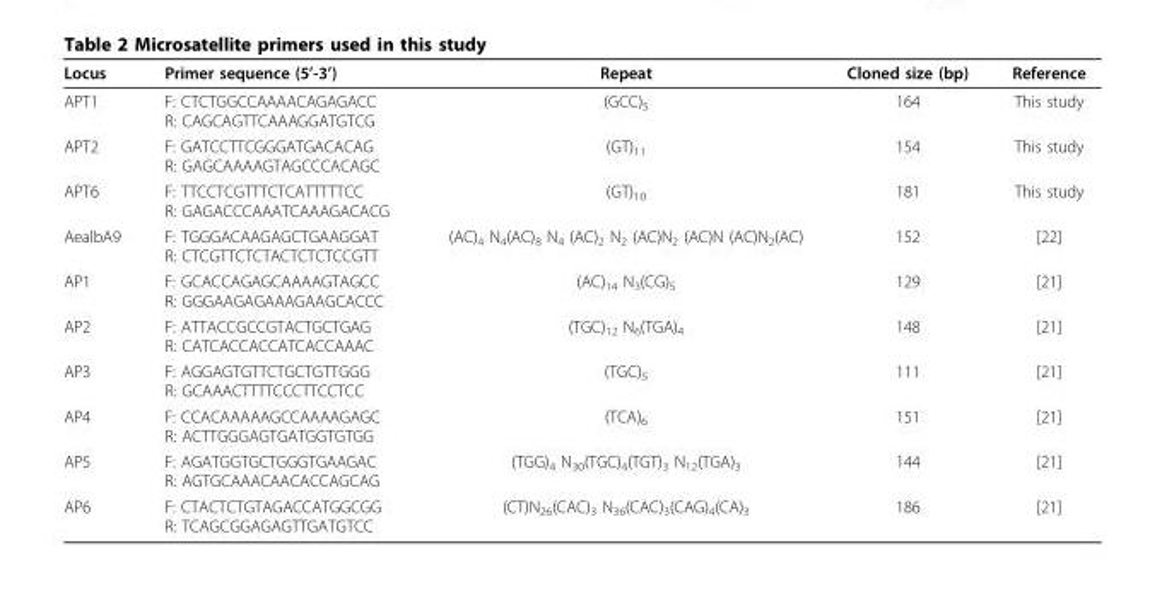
<table><thead><tr><td>Locus</td><td>Primer sequence (5’-3’)</td><td>Repeat</td><td>Cloned size (bp)</td><td>Reference</td></tr></thead><tbody><tr><td>APT1</td><td>F: CTCTGGCCAAAACAGAGACC R: CAGCAGTTCAAAGGATGTCG</td><td>(GCC)<sub>5</sub></td><td>164</td><td>This study</td></tr><tr><td>APT2</td><td>F: GATCCTTCGGGATGACACAG R: GAGCAAAAGTAGCCCACAGC</td><td>(GT)<sub>11</sub></td><td>154</td><td>This study</td></tr><tr><td>APT6</td><td>F: TTCCTCGTTTCTCATTTTTCC R: GAGACCCAAATCAAAGACACG</td><td>(GT)<sub>10</sub></td><td>181</td><td>This study</td></tr><tr><td>AealbA9</td><td>F: TGGGACAAGAGCTGAAGGAT R: CTCGTTCTCTACTCTCTCCGTT</td><td>(AC)<sub>4</sub> N<sub>4</sub>(AC)<sub>8</sub> N<sub>4</sub> (AC)<sub>2</sub> N<sub>2</sub> (AC)N<sub>2</sub> (AC)N (AC)N<sub>2</sub>(AC)</td><td>152</td><td>[22]</td></tr><tr><td>AP1</td><td>F: GCACCAGAGCAAAAGTAGCC R: GGGAAGAGAAAGAAGCACCC</td><td>(AC)<sub>14</sub> N<sub>3</sub>(CG)<sub>5</sub></td><td>129</td><td>[21]</td></tr><tr><td>AP2</td><td>F: ATTACCGCCGTACTGCTGAG R: CATCACCACCATCACCAAAC</td><td>(TGC)<sub>12</sub> N<sub>6</sub>(TGA)<sub>4</sub></td><td>148</td><td>[21]</td></tr><tr><td>AP3</td><td>F: AGGAGTGTTCTGCTGTTGGG R: GCAAACTTTTCCCTTCCTCC</td><td>(TGC)<sub>5</sub></td><td>111</td><td>[21]</td></tr><tr><td>AP4</td><td>F: CCACAAAAAGCCAAAAGAGC R: ACTTGGGAGTGATGGTGTGG</td><td>(TCA)<sub>6</sub></td><td>151</td><td>[21]</td></tr><tr><td>AP5</td><td>F: AGATGGTGCTGGGTGAAGAC R: AGTGCAAACAACACCAGCAG</td><td>(TGG)<sub>4</sub> N<sub>30</sub>(TGC)<sub>4</sub>(TGT)<sub>3</sub> N<sub>12</sub>(TGA)<sub>3</sub></td><td>144</td><td>[21]</td></tr><tr><td>AP6</td><td>F: CTACTCTGTAGACCATGGCGG R: TCAGCGGAGAGTTGATGTCC</td><td>(CT)N<sub>26</sub>(CAC)<sub>3</sub> N<sub>36</sub>(CAC)<sub>3</sub>(CAG)<sub>4</sub>(CA)<sub>3</sub></td><td>186</td><td>[21]</td></tr></tbody></table>